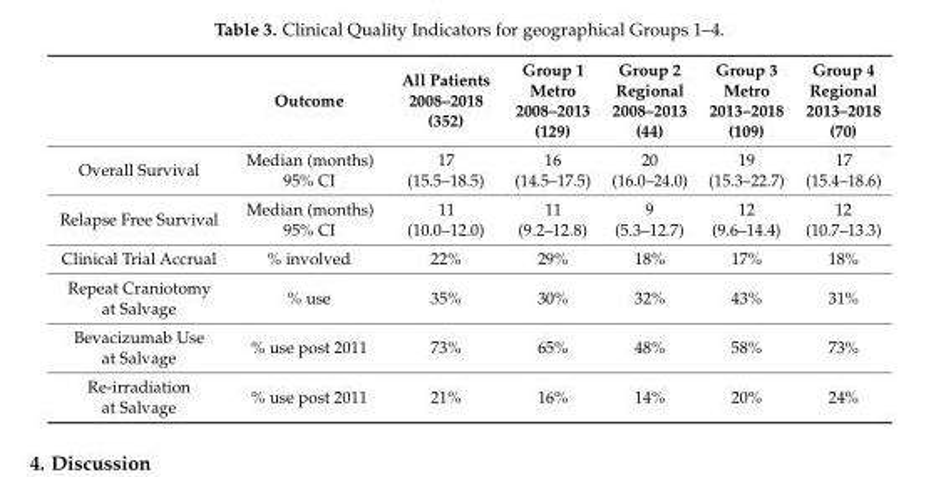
<table><thead><tr><td></td><td>Outcome</td><td>All Patients 2008–2018 (352)</td><td>Group 1 Metro 2008–2013 (129)</td><td>Group 2 Regional 2008–2013 (44)</td><td>Group 3 Metro 2013–2018 (109)</td><td>Group 4 Regional 2013–2018 (70)</td></tr></thead><tbody><tr><td>Overall Survival</td><td>Median (months) 95% CI</td><td>17 (15.5–18.5)</td><td>16 (14.5–17.5)</td><td>20 (16.0–24.0)</td><td>19 (15.3–22.7)</td><td>17 (15.4–18.6)</td></tr><tr><td>Relapse Free Survival</td><td>Median (months) 95% CI</td><td>11 (10.0–12.0)</td><td>11 (9.2–12.8)</td><td>9 (5.3–12.7)</td><td>12 (9.6–14.4)</td><td>12 (10.7–13.3)</td></tr><tr><td>Clinical Trial Accrual</td><td>% involved</td><td>22%</td><td>29%</td><td>18%</td><td>17%</td><td>18%</td></tr><tr><td>Repeat Craniotomy at Salvage</td><td>% use</td><td>35%</td><td>30%</td><td>32%</td><td>43%</td><td>31%</td></tr><tr><td>Bevacizumab Use at Salvage</td><td>% use post 2011</td><td>73%</td><td>65%</td><td>48%</td><td>58%</td><td>73%</td></tr><tr><td>Re-irradiation at Salvage</td><td>% use post 2011</td><td>21%</td><td>16%</td><td>14%</td><td>20%</td><td>24%</td></tr></tbody></table>